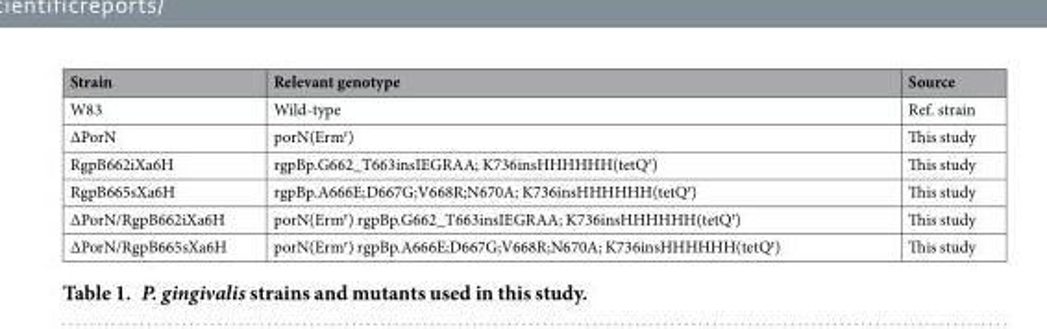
<table><thead><tr><td>Strain</td><td>Relevant genotype</td><td>Source</td></tr></thead><tbody><tr><td>W83</td><td>Wild-type</td><td>Ref. strain</td></tr><tr><td>ΔPorN</td><td>porN(Erm<sup>r</sup>)</td><td>This study</td></tr><tr><td>RgpB662iXa6H</td><td>rgpBp.G662_T663insIEGRAA; K736insHHHHHH(tetQ<sup>r</sup>)</td><td>This study</td></tr><tr><td>RgpB665sXa6H</td><td>rgpBp.A666E;D667G;V668R;N670A; K736insHHHHHH(tetQ<sup>r</sup>)</td><td>This study</td></tr><tr><td>ΔPorN/RgpB662iXa6H</td><td>porN(Erm<sup>r</sup>) rgpBp.G662_T663insIEGRAA; K736insHHHHHH(tetQ<sup>r</sup>)</td><td>This study</td></tr><tr><td>ΔPorN/RgpB665sXa6H</td><td>porN(Erm<sup>r</sup>) rgpBp.A666E;D667G;V668R;N670A; K736insHHHHHH(tetQ<sup>r</sup>)</td><td>This study</td></tr></tbody></table>